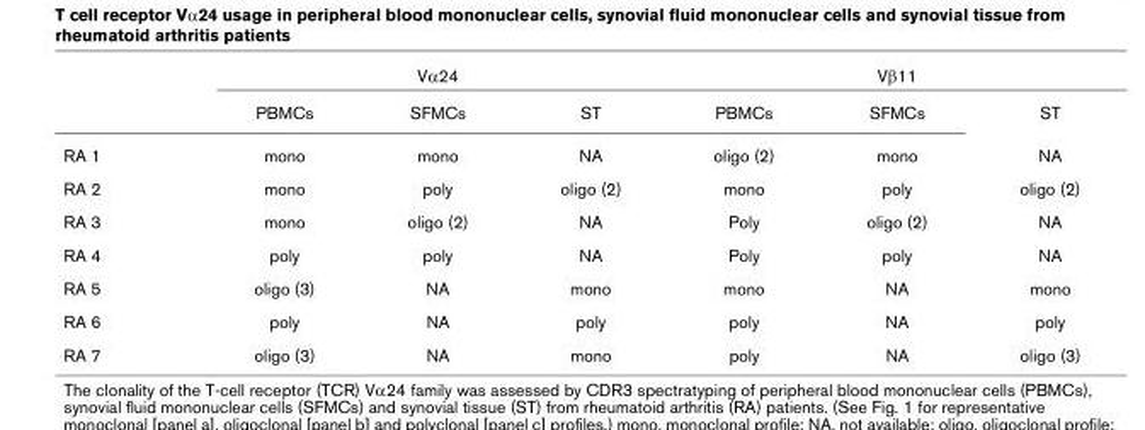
<table><thead><tr><td rowspan="2"></td><td colspan="3">Vα24</td><td colspan="3">Vβ11</td></tr><tr><td>PBMCs</td><td>SFMCs</td><td>ST</td><td>PBMCs</td><td>SFMCs</td><td>ST</td></tr></thead><tbody><tr><td>RA 1</td><td>mono</td><td>mono</td><td>NA</td><td>oligo (2)</td><td>mono</td><td>NA</td></tr><tr><td>RA 2</td><td>mono</td><td>poly</td><td>oligo (2)</td><td>mono</td><td>poly</td><td>oligo (2)</td></tr><tr><td>RA 3</td><td>mono</td><td>oligo (2)</td><td>NA</td><td>Poly</td><td>oligo (2)</td><td>NA</td></tr><tr><td>RA 4</td><td>poly</td><td>poly</td><td>NA</td><td>Poly</td><td>poly</td><td>NA</td></tr><tr><td>RA 5</td><td>oligo (3)</td><td>NA</td><td>mono</td><td>mono</td><td>NA</td><td>mono</td></tr><tr><td>RA 6</td><td>poly</td><td>NA</td><td>poly</td><td>poly</td><td>NA</td><td>poly</td></tr><tr><td>RA 7</td><td>oligo (3)</td><td>NA</td><td>mono</td><td>poly</td><td>NA</td><td>oligo (3)</td></tr></tbody></table>